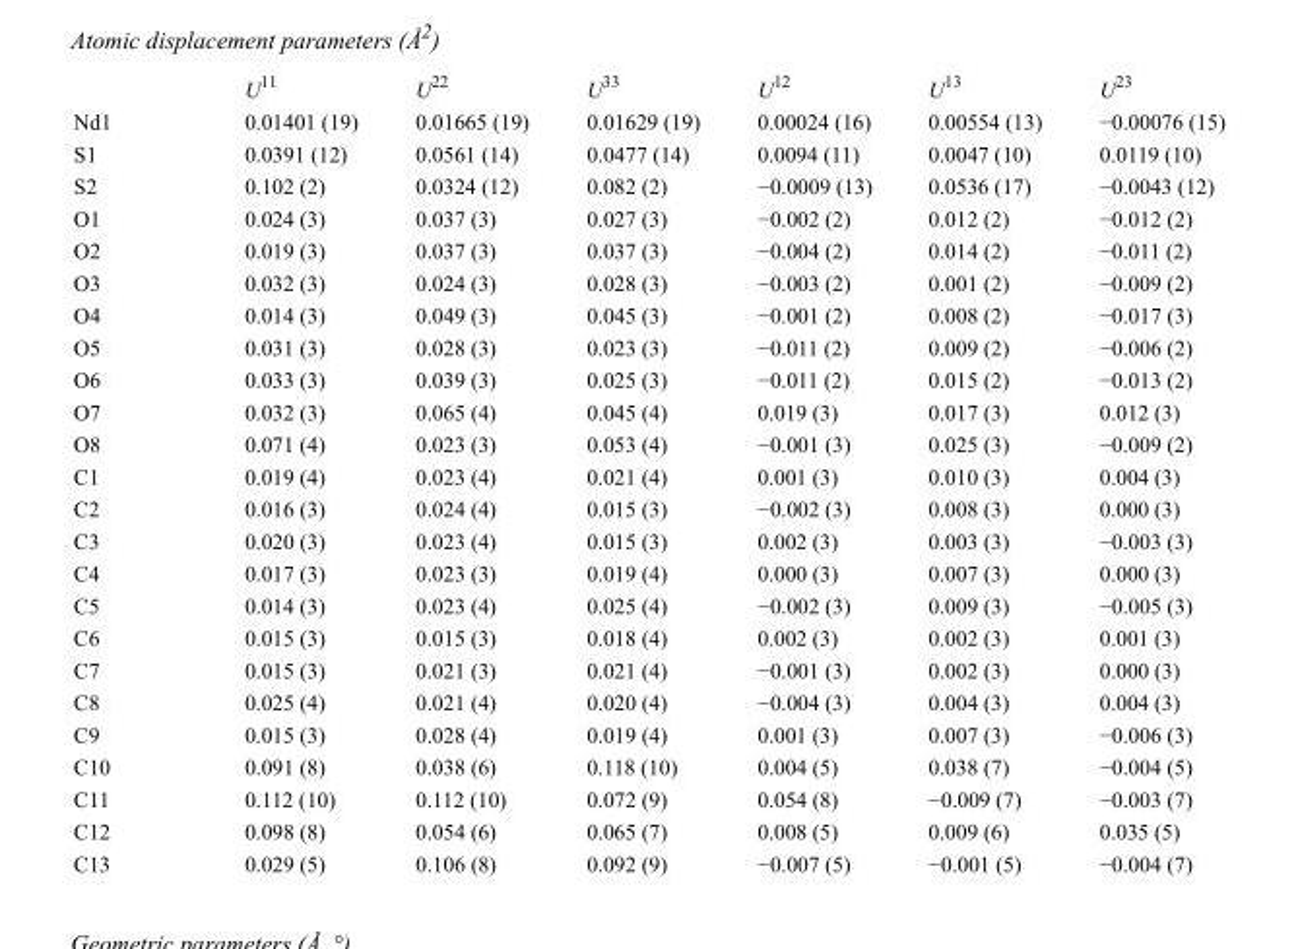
<table><thead><tr><td></td><td>U<sup>11</sup></td><td>U<sup>22</sup></td><td>U<sup>33</sup></td><td>U<sup>12</sup></td><td>U<sup>13</sup></td><td>U<sup>23</sup></td></tr></thead><tbody><tr><td>Nd1</td><td>0.01401 (19)</td><td>0.01665 (19)</td><td>0.01629 (19)</td><td>0.00024 (16)</td><td>0.00554 (13)</td><td>−0.00076 (15)</td></tr><tr><td>S1</td><td>0.0391 (12)</td><td>0.0561 (14)</td><td>0.0477 (14)</td><td>0.0094 (11)</td><td>0.0047 (10)</td><td>0.0119 (10)</td></tr><tr><td>S2</td><td>0.102 (2)</td><td>0.0324 (12)</td><td>0.082 (2)</td><td>−0.0009 (13)</td><td>0.0536 (17)</td><td>−0.0043 (12)</td></tr><tr><td>O1</td><td>0.024 (3)</td><td>0.037 (3)</td><td>0.027 (3)</td><td>−0.002 (2)</td><td>0.012 (2)</td><td>−0.012 (2)</td></tr><tr><td>O2</td><td>0.019 (3)</td><td>0.037 (3)</td><td>0.037 (3)</td><td>−0.004 (2)</td><td>0.014 (2)</td><td>−0.011 (2)</td></tr><tr><td>O3</td><td>0.032 (3)</td><td>0.024 (3)</td><td>0.028 (3)</td><td>−0.003 (2)</td><td>0.001 (2)</td><td>−0.009 (2)</td></tr><tr><td>O4</td><td>0.014 (3)</td><td>0.049 (3)</td><td>0.045 (3)</td><td>−0.001 (2)</td><td>0.008 (2)</td><td>−0.017 (3)</td></tr><tr><td>O5</td><td>0.031 (3)</td><td>0.028 (3)</td><td>0.023 (3)</td><td>−0.011 (2)</td><td>0.009 (2)</td><td>−0.006 (2)</td></tr><tr><td>O6</td><td>0.033 (3)</td><td>0.039 (3)</td><td>0.025 (3)</td><td>−0.011 (2)</td><td>0.015 (2)</td><td>−0.013 (2)</td></tr><tr><td>O7</td><td>0.032 (3)</td><td>0.065 (4)</td><td>0.045 (4)</td><td>0.019 (3)</td><td>0.017 (3)</td><td>0.012 (3)</td></tr><tr><td>O8</td><td>0.071 (4)</td><td>0.023 (3)</td><td>0.053 (4)</td><td>−0.001 (3)</td><td>0.025 (3)</td><td>−0.009 (2)</td></tr><tr><td>C1</td><td>0.019 (4)</td><td>0.023 (4)</td><td>0.021 (4)</td><td>0.001 (3)</td><td>0.010 (3)</td><td>0.004 (3)</td></tr><tr><td>C2</td><td>0.016 (3)</td><td>0.024 (4)</td><td>0.015 (3)</td><td>−0.002 (3)</td><td>0.008 (3)</td><td>0.000 (3)</td></tr><tr><td>C3</td><td>0.020 (3)</td><td>0.023 (4)</td><td>0.015 (3)</td><td>0.002 (3)</td><td>0.003 (3)</td><td>−0.003 (3)</td></tr><tr><td>C4</td><td>0.017 (3)</td><td>0.023 (3)</td><td>0.019 (4)</td><td>0.000 (3)</td><td>0.007 (3)</td><td>0.000 (3)</td></tr><tr><td>C5</td><td>0.014 (3)</td><td>0.023 (4)</td><td>0.025 (4)</td><td>−0.002 (3)</td><td>0.009 (3)</td><td>−0.005 (3)</td></tr><tr><td>C6</td><td>0.015 (3)</td><td>0.015 (3)</td><td>0.018 (4)</td><td>0.002 (3)</td><td>0.002 (3)</td><td>0.001 (3)</td></tr><tr><td>C7</td><td>0.015 (3)</td><td>0.021 (3)</td><td>0.021 (4)</td><td>−0.001 (3)</td><td>0.002 (3)</td><td>0.000 (3)</td></tr><tr><td>C8</td><td>0.025 (4)</td><td>0.021 (4)</td><td>0.020 (4)</td><td>−0.004 (3)</td><td>0.004 (3)</td><td>0.004 (3)</td></tr><tr><td>C9</td><td>0.015 (3)</td><td>0.028 (4)</td><td>0.019 (4)</td><td>0.001 (3)</td><td>0.007 (3)</td><td>−0.006 (3)</td></tr><tr><td>C10</td><td>0.091 (8)</td><td>0.038 (6)</td><td>0.118 (10)</td><td>0.004 (5)</td><td>0.038 (7)</td><td>−0.004 (5)</td></tr><tr><td>C11</td><td>0.112 (10)</td><td>0.112 (10)</td><td>0.072 (9)</td><td>0.054 (8)</td><td>−0.009 (7)</td><td>−0.003 (7)</td></tr><tr><td>C12</td><td>0.098 (8)</td><td>0.054 (6)</td><td>0.065 (7)</td><td>0.008 (5)</td><td>0.009 (6)</td><td>0.035 (5)</td></tr><tr><td>C13</td><td>0.029 (5)</td><td>0.106 (8)</td><td>0.092 (9)</td><td>−0.007 (5)</td><td>−0.001 (5)</td><td>−0.004 (7)</td></tr></tbody></table>